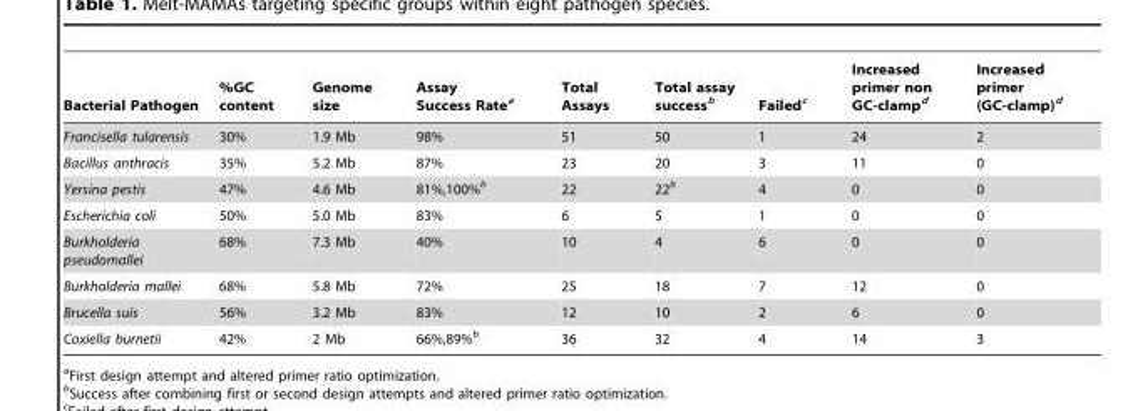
<table><thead><tr><td>Bacterial Pathogen</td><td>%GC content</td><td>Genome size</td><td>Assay Success Rate<sup>a</sup></td><td>Total Assays</td><td>Total assay success<sup>b</sup></td><td>Failed<sup>c</sup></td><td>Increased primer non GC-clamp<sup>d</sup></td><td>Increased primer (GC-clamp)<sup>d</sup></td></tr></thead><tbody><tr><td>Francisella tularensis</td><td>30%</td><td>1.9 Mb</td><td>98%</td><td>51</td><td>50</td><td>1</td><td>24</td><td>2</td></tr><tr><td>Bacillus anthracis</td><td>35%</td><td>5.2 Mb</td><td>87%</td><td>23</td><td>20</td><td>3</td><td>11</td><td>0</td></tr><tr><td>Yersina pestis</td><td>47%</td><td>4.6 Mb</td><td>81%,100%<sup>b</sup></td><td>22</td><td>22<sup>b</sup></td><td>4</td><td>0</td><td>0</td></tr><tr><td>Escherichia coli</td><td>50%</td><td>5.0 Mb</td><td>83%</td><td>6</td><td>5</td><td>1</td><td>0</td><td>0</td></tr><tr><td>Burkholderia pseudomallei</td><td>68%</td><td>7.3 Mb</td><td>40%</td><td>10</td><td>4</td><td>6</td><td>0</td><td>0</td></tr><tr><td>Burkholderia mallei</td><td>68%</td><td>5.8 Mb</td><td>72%</td><td>25</td><td>18</td><td>7</td><td>12</td><td>0</td></tr><tr><td>Brucella suis</td><td>56%</td><td>3.2 Mb</td><td>83%</td><td>12</td><td>10</td><td>2</td><td>6</td><td>0</td></tr><tr><td>Coxiella burnetii</td><td>42%</td><td>2 Mb</td><td>66%,89%<sup>b</sup></td><td>36</td><td>32</td><td>4</td><td>14</td><td>3</td></tr></tbody></table>